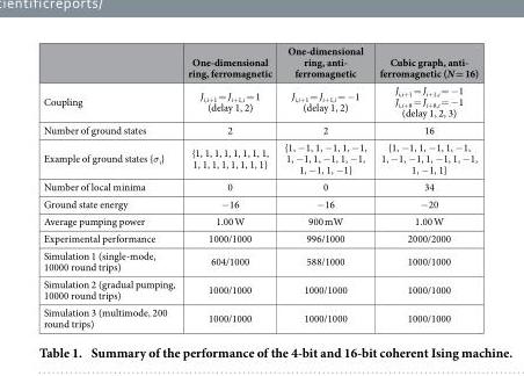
<table><thead><tr><td></td><td>One-dimensional ring, ferromagnetic</td><td>One-dimensional ring, anti- ferromagnetic</td><td>Cubic graph, anti- ferromagnetic (N = 16)</td></tr></thead><tbody><tr><td>Coupling</td><td>J<sub>i,i+1</sub> = J<sub>i+1,i</sub> = 1 (delay 1, 2)</td><td>J<sub>i,i+1</sub> = J<sub>i+1,i</sub> = − 1 (delay 1, 2)</td><td>J<sub>i,i+1</sub> = J<sub>i+1,i</sub> = − 1 J<sub>i,i+8</sub> = J<sub>i+8,i</sub> = − 1 (delay 1, 2, 3)</td></tr><tr><td>Number of ground states</td><td>2</td><td>2</td><td>16</td></tr><tr><td>Example of ground states {σ<sub>i</sub>}</td><td>{1, 1, 1, 1, 1, 1, 1, 1, 1, 1, 1, 1, 1, 1, 1, 1}</td><td>{1, − 1, 1, − 1, 1, − 1, 1, − 1, 1, − 1, 1, − 1, 1, − 1, 1, − 1}</td><td>{1, − 1, 1, − 1, 1, − 1, 1, − 1, − 1, 1, − 1, 1, − 1, 1, − 1, 1}</td></tr><tr><td>Number of local minima</td><td>0</td><td>0</td><td>34</td></tr><tr><td>Ground state energy</td><td>− 16</td><td>− 16</td><td>− 20</td></tr><tr><td>Average pumping power</td><td>1.00 W</td><td>900 mW</td><td>1.00 W</td></tr><tr><td>Experimental performance</td><td>1000/1000</td><td>996/1000</td><td>2000/2000</td></tr><tr><td>Simulation 1 (single-mode, 10000 round trips)</td><td>604/1000</td><td>588/1000</td><td>1000/1000</td></tr><tr><td>Simulation 2 (gradual pumping, 10000 round trips)</td><td>1000/1000</td><td>1000/1000</td><td>1000/1000</td></tr><tr><td>Simulation 3 (multimode, 200 round trips)</td><td>1000/1000</td><td>1000/1000</td><td>1000/1000</td></tr></tbody></table>